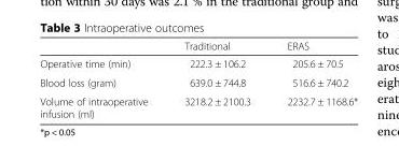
<table><thead><tr><td></td><td>Traditional</td><td>ERAS</td></tr></thead><tbody><tr><td>Operative time (min)</td><td>222.3 ± 106.2</td><td>205.6 ± 70.5</td></tr><tr><td>Blood loss (gram)</td><td>639.0 ± 744.8</td><td>516.6 ± 740.2</td></tr><tr><td>Volume of intraoperative infusion (ml)</td><td>3218.2 ± 2100.3</td><td>2232.7 ± 1168.6*</td></tr></tbody></table>